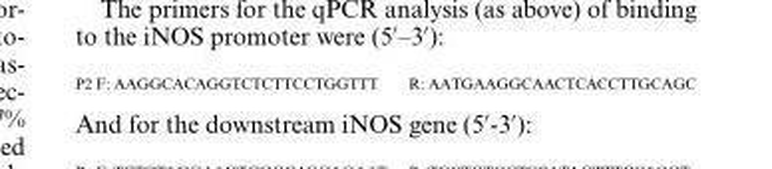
<table><tbody><tr><td>P2 F: AAGGCACAGGTCTCTTCCTGGTTT</td><td>R: AATGAAGGCAACTCACCTTGCAGC</td></tr></tbody></table>